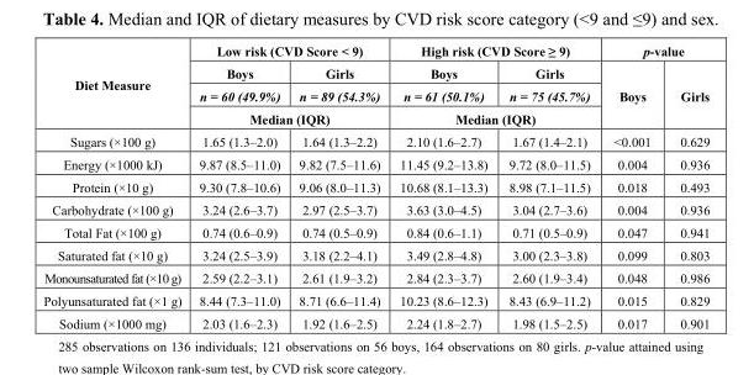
<table><thead><tr><td rowspan="4">Diet Measure</td><td colspan="2">Low risk (CVD Score &lt; 9)</td><td colspan="2">High risk (CVD Score ≥ 9)</td><td colspan="2">p-value</td></tr><tr><td rowspan="2">Boys n = 60 (49.9%)</td><td rowspan="2">Girls n = 89 (54.3%)</td><td rowspan="2">Boys n = 61 (50.1%)</td><td rowspan="2">Girls n = 75 (45.7%)</td><td rowspan="3">Boys</td><td rowspan="3">Girls</td></tr><tr></tr><tr><td colspan="2">Median (IQR)</td><td colspan="2">Median (IQR)</td></tr></thead><tbody><tr><td>Sugars (×100 g)</td><td>1.65 (1.3–2.0)</td><td>1.64 (1.3–2.2)</td><td>2.10 (1.6–2.7)</td><td>1.67 (1.4–2.1)</td><td>&lt;0.001</td><td>0.629</td></tr><tr><td>Energy (×1000 kJ)</td><td>9.87 (8.5–11.0)</td><td>9.82 (7.5–11.6)</td><td>11.45 (9.2–13.8)</td><td>9.72 (8.0–11.5)</td><td>0.004</td><td>0.936</td></tr><tr><td>Protein (×10 g)</td><td>9.30 (7.8–10.6)</td><td>9.06 (8.0–11.3)</td><td>10.68 (8.1–13.3)</td><td>8.98 (7.1–11.5)</td><td>0.018</td><td>0.493</td></tr><tr><td>Carbohydrate (×100 g)</td><td>3.24 (2.6–3.7)</td><td>2.97 (2.5–3.7)</td><td>3.63 (3.0–4.5)</td><td>3.04 (2.7–3.6)</td><td>0.004</td><td>0.936</td></tr><tr><td>Total Fat (×100 g)</td><td>0.74 (0.6–0.9)</td><td>0.74 (0.5–0.9)</td><td>0.84 (0.6–1.1)</td><td>0.71 (0.5–0.9)</td><td>0.047</td><td>0.941</td></tr><tr><td>Saturated fat (×10 g)</td><td>3.24 (2.5–3.9)</td><td>3.18 (2.2–4.1)</td><td>3.49 (2.8–4.8)</td><td>3.00 (2.3–3.8)</td><td>0.099</td><td>0.803</td></tr><tr><td>Monounsaturated fat (×10 g)</td><td>2.59 (2.2–3.1)</td><td>2.61 (1.9–3.2)</td><td>2.84 (2.3–3.7)</td><td>2.60 (1.9–3.4)</td><td>0.048</td><td>0.986</td></tr><tr><td>Polyunsaturated fat (×1 g)</td><td>8.44 (7.3–11.0)</td><td>8.71 (6.6–11.4)</td><td>10.23 (8.6–12.3)</td><td>8.43 (6.9–11.2)</td><td>0.015</td><td>0.829</td></tr><tr><td>Sodium (×1000 mg)</td><td>2.03 (1.6–2.3)</td><td>1.92 (1.6–2.5)</td><td>2.24 (1.8–2.7)</td><td>1.98 (1.5–2.5)</td><td>0.017</td><td>0.901</td></tr></tbody></table>